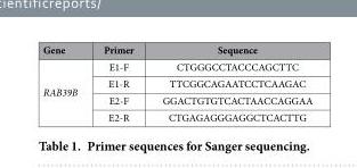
<table><thead><tr><td>Gene</td><td>Primer</td><td>Sequence</td></tr></thead><tbody><tr><td rowspan="4">RAB39B</td><td>E1-F</td><td>CTGGGCCTACCCAGCTTC</td></tr><tr><td>E1-R</td><td>TTCGGCAGAATCCTCAAGAC</td></tr><tr><td>E2-F</td><td>GGACTGTGTCACTAACCAGGAA</td></tr><tr><td>E2-R</td><td>CTGAGAGGGAGGCTCACTTG</td></tr></tbody></table>